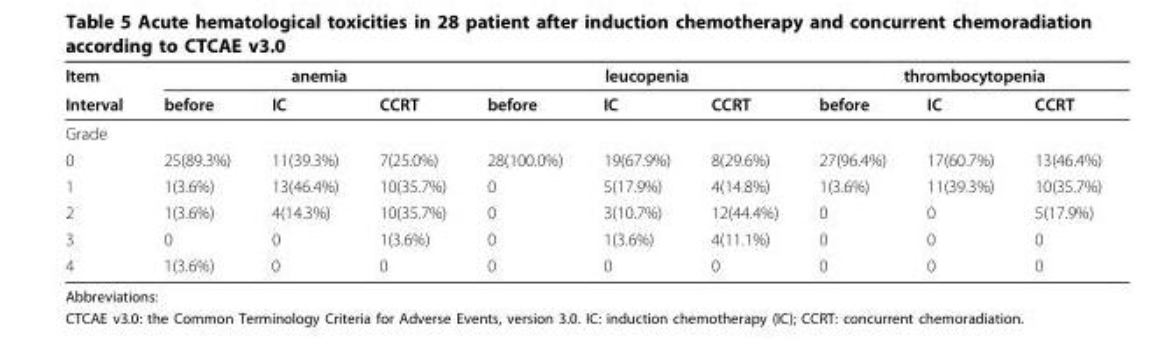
<table><thead><tr><td rowspan="2">Item Interval</td><td colspan="3">anemia</td><td colspan="3">leucopenia</td><td colspan="3">thrombocytopenia</td></tr><tr><td>before</td><td>IC</td><td>CCRT</td><td>before</td><td>IC</td><td>CCRT</td><td>before</td><td>IC</td><td>CCRT</td></tr></thead><tbody><tr><td colspan="10">Grade</td></tr><tr><td>0</td><td>25(89.3%)</td><td>11(39.3%)</td><td>7(25.0%)</td><td>28(100.0%)</td><td>19(67.9%)</td><td>8(29.6%)</td><td>27(96.4%)</td><td>17(60.7%)</td><td>13(46.4%)</td></tr><tr><td>1</td><td>1(3.6%)</td><td>13(46.4%)</td><td>10(35.7%)</td><td>0</td><td>5(17.9%)</td><td>4(14.8%)</td><td>1(3.6%)</td><td>11(39.3%)</td><td>10(35.7%)</td></tr><tr><td>2</td><td>1(3.6%)</td><td>4(14.3%)</td><td>10(35.7%)</td><td>0</td><td>3(10.7%)</td><td>12(44.4%)</td><td>0</td><td>0</td><td>5(17.9%)</td></tr><tr><td>3</td><td>0</td><td>0</td><td>1(3.6%)</td><td>0</td><td>1(3.6%)</td><td>4(11.1%)</td><td>0</td><td>0</td><td>0</td></tr><tr><td>4</td><td>1(3.6%)</td><td>0</td><td>0</td><td>0</td><td>0</td><td>0</td><td>0</td><td>0</td><td>0</td></tr></tbody></table>